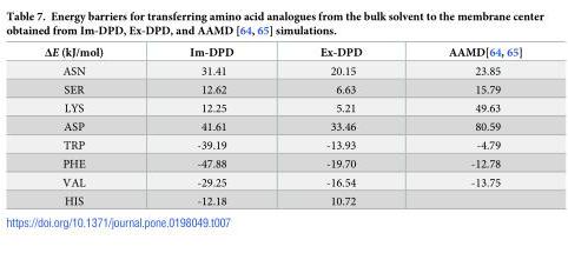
<table><thead><tr><td>ΔE (kJ/mol)</td><td>Im-DPD</td><td>Ex-DPD</td><td>AAMD[64, 65]</td></tr></thead><tbody><tr><td>ASN</td><td>31.41</td><td>20.15</td><td>23.85</td></tr><tr><td>SER</td><td>12.62</td><td>6.63</td><td>15.79</td></tr><tr><td>LYS</td><td>12.25</td><td>5.21</td><td>49.63</td></tr><tr><td>ASP</td><td>41.61</td><td>33.46</td><td>80.59</td></tr><tr><td>TRP</td><td>-39.19</td><td>-13.93</td><td>-4.79</td></tr><tr><td>PHE</td><td>-47.88</td><td>-19.70</td><td>-12.78</td></tr><tr><td>VAL</td><td>-29.25</td><td>-16.54</td><td>-13.75</td></tr><tr><td>HIS</td><td>-12.18</td><td>10.72</td><td></td></tr></tbody></table>